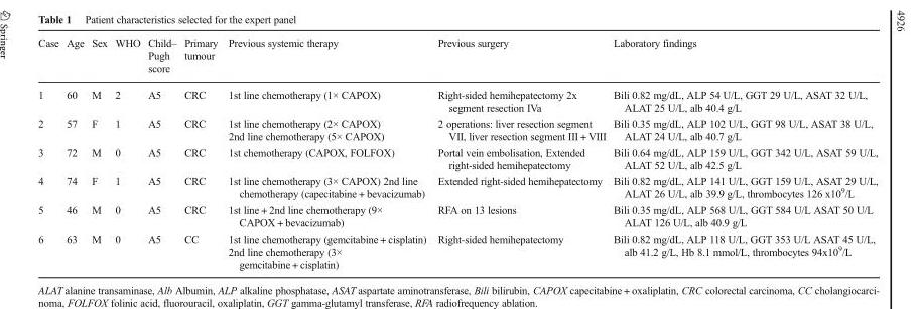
<table><thead><tr><td>Case</td><td>Age</td><td>Sex</td><td>WHO</td><td>Child– Pugh score</td><td>Primary tumour</td><td>Previous systemic therapy</td><td>Previous surgery</td><td>Laboratory findings</td></tr></thead><tbody><tr><td>1</td><td>60</td><td>M</td><td>2</td><td>A5</td><td>CRC</td><td>1st line chemotherapy (1× CAPOX)</td><td>Right-sided hemihepatectomy 2x segment resection IVa</td><td>Bili 0.82 mg/dL, ALP 54 U/L, GGT 29 U/L, ASAT 32 U/L, ALAT 25 U/L, alb 40.4 g/L</td></tr><tr><td>2</td><td>57</td><td>F</td><td>1</td><td>A5</td><td>CRC</td><td>1st line chemotherapy (2× CAPOX) 2nd line chemotherapy (5× CAPOX)</td><td>2 operations: liver resection segment VII, liver resection segment III + VIII</td><td>Bili 0.35 mg/dL, ALP 102 U/L, GGT 98 U/L, ASAT 38 U/L, ALAT 24 U/L, alb 40.7 g/L</td></tr><tr><td>3</td><td>72</td><td>M</td><td>0</td><td>A5</td><td>CRC</td><td>1st chemotherapy (CAPOX, FOLFOX)</td><td>Portal vein embolisation, Extended right-sided hemihepatectomy</td><td>Bili 0.64 mg/dL, ALP 159 U/L, GGT 342 U/L, ASAT 59 U/L, ALAT 52 U/L, alb 42.5 g/L</td></tr><tr><td>4</td><td>74</td><td>F</td><td>1</td><td>A5</td><td>CRC</td><td>1st line chemotherapy (3× CAPOX) 2nd line chemotherapy (capecitabine + bevacizumab)</td><td>Extended right-sided hemihepatectomy</td><td>Bili 0.82 mg/dL, ALP 141 U/L, GGT 159 U/L, ASAT 29 U/L, ALAT 26 U/L, alb 39.9 g/L, thrombocytes 126 x10<sup>9</sup>/L</td></tr><tr><td>5</td><td>46</td><td>M</td><td>0</td><td>A5</td><td>CRC</td><td>1st line + 2nd line chemotherapy (9× CAPOX + bevacizumab)</td><td>RFA on 13 lesions</td><td>Bili 0.35 mg/dL, ALP 568 U/L, GGT 584 U/L ASAT 50 U/L ALAT 126 U/L, alb 40.9 g/L</td></tr><tr><td>6</td><td>63</td><td>M</td><td>0</td><td>A5</td><td>CC</td><td>1st line chemotherapy (gemcitabine + cisplatin) 2nd line chemotherapy (3× gemcitabine + cisplatin)</td><td>Right-sided hemihepatectomy</td><td>Bili 0.82 mg/dL, ALP 118 U/L, GGT 353 U/L ASAT 45 U/L, alb 41.2 g/L, Hb 8.1 mmol/L, thrombocytes 94x10<sup>9</sup>/L</td></tr></tbody></table>